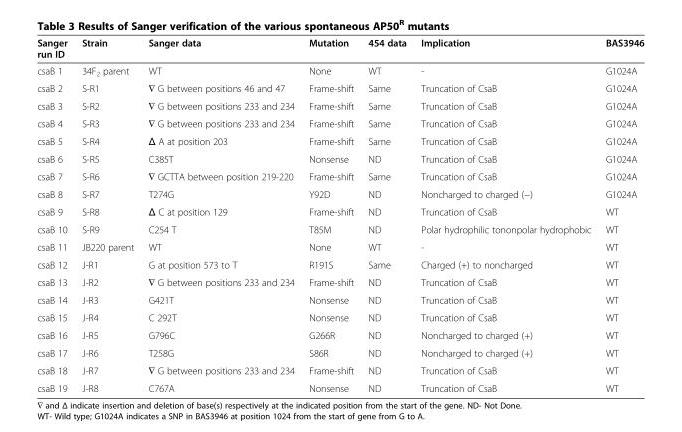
<table><thead><tr><td>Sanger run ID</td><td>Strain</td><td>Sanger data</td><td>Mutation</td><td>454 data</td><td>Implication</td><td>BAS3946</td></tr></thead><tbody><tr><td>csaB 1</td><td>34F<sub>2</sub> parent</td><td>WT</td><td>None</td><td>WT</td><td>-</td><td>G1024A</td></tr><tr><td>csaB 2</td><td>S-R1</td><td>∇ G between positions 46 and 47</td><td>Frame-shift</td><td>Same</td><td>Truncation of CsaB</td><td>G1024A</td></tr><tr><td>csaB 3</td><td>S-R2</td><td>∇ G between positions 233 and 234</td><td>Frame-shift</td><td>Same</td><td>Truncation of CsaB</td><td>G1024A</td></tr><tr><td>csaB 4</td><td>S-R3</td><td>∇ G between positions 233 and 234</td><td>Frame-shift</td><td>Same</td><td>Truncation of CsaB</td><td>G1024A</td></tr><tr><td>csaB 5</td><td>S-R4</td><td>Δ A at position 203</td><td>Frame-shift</td><td>Same</td><td>Truncation of CsaB</td><td>G1024A</td></tr><tr><td>csaB 6</td><td>S-R5</td><td>C385T</td><td>Nonsense</td><td>ND</td><td>Truncation of CsaB</td><td>G1024A</td></tr><tr><td>csaB 7</td><td>S-R6</td><td>∇ GCTTA between position 219-220</td><td>Frame-shift</td><td>Same</td><td>Truncation of CsaB</td><td>G1024A</td></tr><tr><td>csaB 8</td><td>S-R7</td><td>T274G</td><td>Y92D</td><td>ND</td><td>Noncharged to charged (−)</td><td>G1024A</td></tr><tr><td>csaB 9</td><td>S-R8</td><td>Δ C at position 129</td><td>Frame-shift</td><td>ND</td><td>Truncation of CsaB</td><td>WT</td></tr><tr><td>csaB 10</td><td>S-R9</td><td>C254 T</td><td>T85M</td><td>ND</td><td>Polar hydrophilic tononpolar hydrophobic</td><td>WT</td></tr><tr><td>csaB 11</td><td>JB220 parent</td><td>WT</td><td>None</td><td>WT</td><td>-</td><td>WT</td></tr><tr><td>csaB 12</td><td>J-R1</td><td>G at position 573 to T</td><td>R191S</td><td>Same</td><td>Charged (+) to noncharged</td><td>WT</td></tr><tr><td>csaB 13</td><td>J-R2</td><td>∇ G between positions 233 and 234</td><td>Frame-shift</td><td>ND</td><td>Truncation of CsaB</td><td>WT</td></tr><tr><td>csaB 14</td><td>J-R3</td><td>G421T</td><td>Nonsense</td><td>ND</td><td>Truncation of CsaB</td><td>WT</td></tr><tr><td>csaB 15</td><td>J-R4</td><td>C 292T</td><td>Nonsense</td><td>ND</td><td>Truncation of CsaB</td><td>WT</td></tr><tr><td>csaB 16</td><td>J-R5</td><td>G796C</td><td>G266R</td><td>ND</td><td>Noncharged to charged (+)</td><td>WT</td></tr><tr><td>csaB 17</td><td>J-R6</td><td>T258G</td><td>S86R</td><td>ND</td><td>Noncharged to charged (+)</td><td>WT</td></tr><tr><td>csaB 18</td><td>J-R7</td><td>∇ G between positions 233 and 234</td><td>Frame-shift</td><td>ND</td><td>Truncation of CsaB</td><td>WT</td></tr><tr><td>csaB 19</td><td>J-R8</td><td>C767A</td><td>Nonsense</td><td>ND</td><td>Truncation of CsaB</td><td>WT</td></tr></tbody></table>